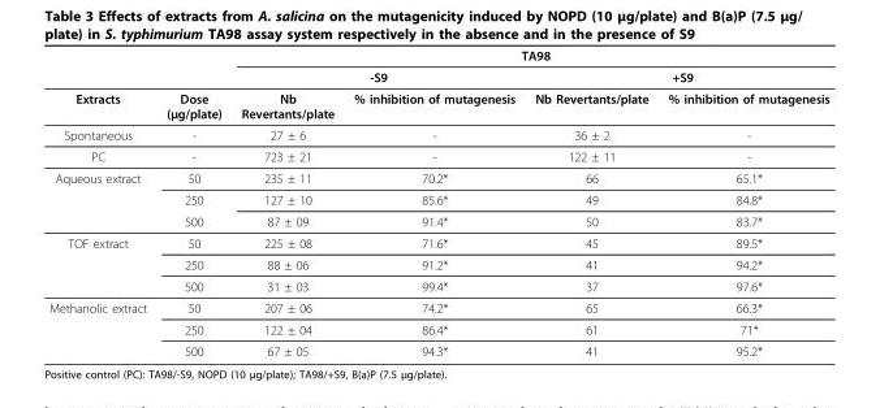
<table><thead><tr><td rowspan="3">Extracts</td><td rowspan="3">Dose (μg/plate)</td><td colspan="4">TA98</td></tr><tr><td colspan="2">-S9</td><td colspan="2">+S9</td></tr><tr><td>Nb Revertants/plate</td><td>% inhibition of mutagenesis</td><td>Nb Revertants/plate</td><td>% inhibition of mutagenesis</td></tr></thead><tbody><tr><td>Spontaneous</td><td>-</td><td>27 ± 6</td><td>-</td><td>36 ± 2</td><td>-</td></tr><tr><td>PC</td><td>-</td><td>723 ± 21</td><td>-</td><td>122 ± 11</td><td>-</td></tr><tr><td rowspan="3">Aqueous extract</td><td>50</td><td>235 ± 11</td><td>70.2*</td><td>66</td><td>65.1*</td></tr><tr><td>250</td><td>127 ± 10</td><td>85.6*</td><td>49</td><td>84.8*</td></tr><tr><td>500</td><td>87 ± 09</td><td>91.4*</td><td>50</td><td>83.7*</td></tr><tr><td rowspan="3">TOF extract</td><td>50</td><td>225 ± 08</td><td>71.6*</td><td>45</td><td>89.5*</td></tr><tr><td>250</td><td>88 ± 06</td><td>91.2*</td><td>41</td><td>94.2*</td></tr><tr><td>500</td><td>31 ± 03</td><td>99.4*</td><td>37</td><td>97.6*</td></tr><tr><td rowspan="3">Methanolic extract</td><td>50</td><td>207 ± 06</td><td>74.2*</td><td>65</td><td>66.3*</td></tr><tr><td>250</td><td>122 ± 04</td><td>86.4*</td><td>61</td><td>71*</td></tr><tr><td>500</td><td>67 ± 05</td><td>94.3*</td><td>41</td><td>95.2*</td></tr></tbody></table>